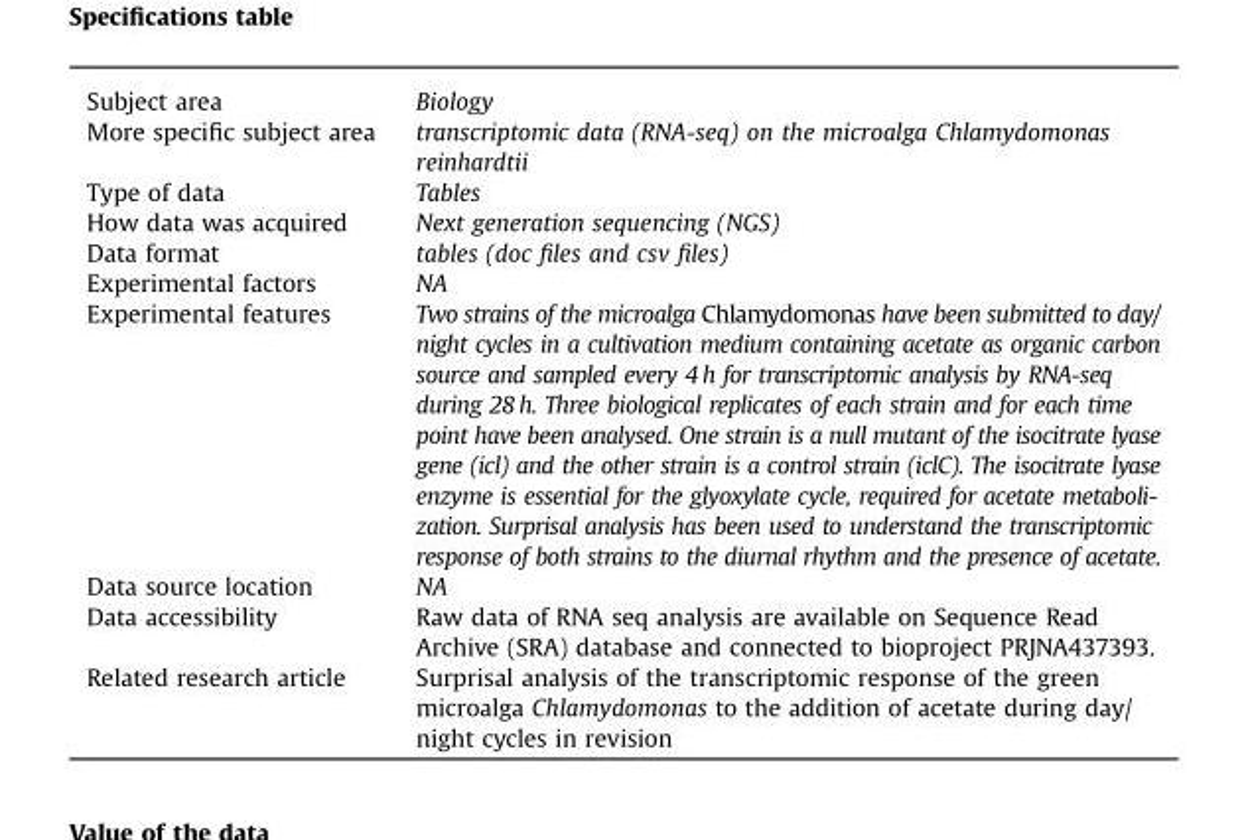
<table><tbody><tr><td>Subject area</td><td>Biology</td></tr><tr><td>More specific subject area</td><td>transcriptomic data (RNA-seq) on the microalga Chlamydomonas reinhardtii</td></tr><tr><td>Type of data</td><td>Tables</td></tr><tr><td>How data was acquired</td><td>Next generation sequencing (NGS)</td></tr><tr><td>Data format</td><td>tables (doc files and csv files)</td></tr><tr><td>Experimental factors</td><td>NA</td></tr><tr><td>Experimental features</td><td>Two strains of the microalga Chlamydomonas have been submitted to day/ night cycles in a cultivation medium containing acetate as organic carbon source and sampled every 4 h for transcriptomic analysis by RNA-seq during 28 h. Three biological replicates of each strain and for each time point have been analysed. One strain is a null mutant of the isocitrate lyase gene (icl) and the other strain is a control strain (iclC). The isocitrate lyase enzyme is essential for the glyoxylate cycle, required for acetate metaboli- zation. Surprisal analysis has been used to understand the transcriptomic response of both strains to the diurnal rhythm and the presence of acetate.</td></tr><tr><td>Data source location</td><td>NA</td></tr><tr><td>Data accessibility</td><td>Raw data of RNA seq analysis are available on Sequence Read Archive (SRA) database and connected to bioproject PRJNA437393.</td></tr><tr><td>Related research article</td><td>Surprisal analysis of the transcriptomic response of the green microalga Chlamydomonas to the addition of acetate during day/ night cycles in revision</td></tr></tbody></table>